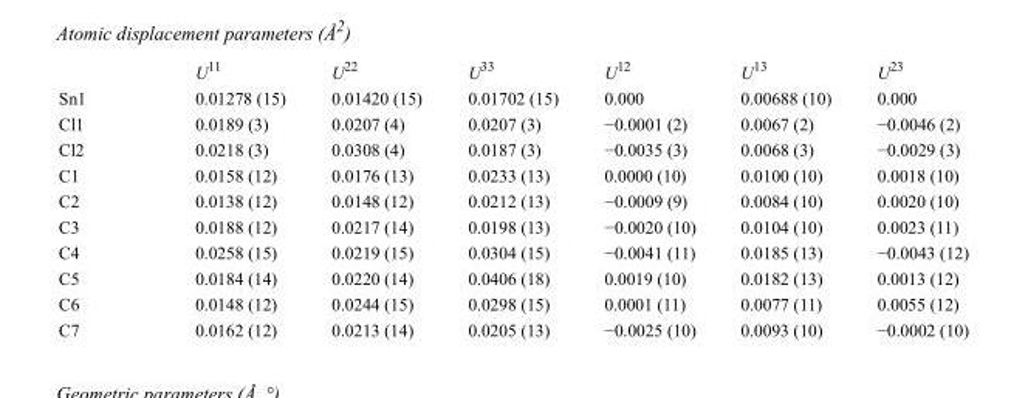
<table><thead><tr><td></td><td>U<sup>11</sup></td><td>U<sup>22</sup></td><td>U<sup>33</sup></td><td>U<sup>12</sup></td><td>U<sup>13</sup></td><td>U<sup>23</sup></td></tr></thead><tbody><tr><td>Sn1</td><td>0.01278 (15)</td><td>0.01420 (15)</td><td>0.01702 (15)</td><td>0.000</td><td>0.00688 (10)</td><td>0.000</td></tr><tr><td>Cl1</td><td>0.0189 (3)</td><td>0.0207 (4)</td><td>0.0207 (3)</td><td>−0.0001 (2)</td><td>0.0067 (2)</td><td>−0.0046 (2)</td></tr><tr><td>Cl2</td><td>0.0218 (3)</td><td>0.0308 (4)</td><td>0.0187 (3)</td><td>−0.0035 (3)</td><td>0.0068 (3)</td><td>−0.0029 (3)</td></tr><tr><td>C1</td><td>0.0158 (12)</td><td>0.0176 (13)</td><td>0.0233 (13)</td><td>0.0000 (10)</td><td>0.0100 (10)</td><td>0.0018 (10)</td></tr><tr><td>C2</td><td>0.0138 (12)</td><td>0.0148 (12)</td><td>0.0212 (13)</td><td>−0.0009 (9)</td><td>0.0084 (10)</td><td>0.0020 (10)</td></tr><tr><td>C3</td><td>0.0188 (12)</td><td>0.0217 (14)</td><td>0.0198 (13)</td><td>−0.0020 (10)</td><td>0.0104 (10)</td><td>0.0023 (11)</td></tr><tr><td>C4</td><td>0.0258 (15)</td><td>0.0219 (15)</td><td>0.0304 (15)</td><td>−0.0041 (11)</td><td>0.0185 (13)</td><td>−0.0043 (12)</td></tr><tr><td>C5</td><td>0.0184 (14)</td><td>0.0220 (14)</td><td>0.0406 (18)</td><td>0.0019 (10)</td><td>0.0182 (13)</td><td>0.0013 (12)</td></tr><tr><td>C6</td><td>0.0148 (12)</td><td>0.0244 (15)</td><td>0.0298 (15)</td><td>0.0001 (11)</td><td>0.0077 (11)</td><td>0.0055 (12)</td></tr><tr><td>C7</td><td>0.0162 (12)</td><td>0.0213 (14)</td><td>0.0205 (13)</td><td>−0.0025 (10)</td><td>0.0093 (10)</td><td>−0.0002 (10)</td></tr></tbody></table>